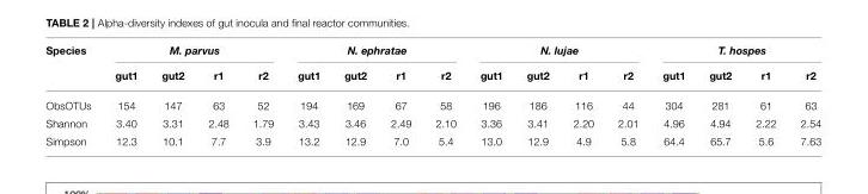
<table><thead><tr><td rowspan="2">Species</td><td colspan="4">M. parvus</td><td colspan="4">N. ephratae</td><td colspan="4">N. lujae</td><td colspan="4">T. hospes</td></tr><tr><td>gut1</td><td>gut2</td><td>r1</td><td>r2</td><td>gut1</td><td>gut2</td><td>r1</td><td>r2</td><td>gut1</td><td>gut2</td><td>r1</td><td>r2</td><td>gut1</td><td>gut2</td><td>r1</td><td>r2</td></tr></thead><tbody><tr><td>ObsOTUs</td><td>154</td><td>147</td><td>63</td><td>52</td><td>194</td><td>169</td><td>67</td><td>58</td><td>196</td><td>186</td><td>116</td><td>44</td><td>304</td><td>281</td><td>61</td><td>63</td></tr><tr><td>Shannon</td><td>3.40</td><td>3.31</td><td>2.48</td><td>1.79</td><td>3.43</td><td>3.46</td><td>2.49</td><td>2.10</td><td>3.36</td><td>3.41</td><td>2.20</td><td>2.01</td><td>4.96</td><td>4.94</td><td>2.22</td><td>2.54</td></tr><tr><td>Simpson</td><td>12.3</td><td>10.1</td><td>7.7</td><td>3.9</td><td>13.2</td><td>12.9</td><td>7.0</td><td>5.4</td><td>13.0</td><td>12.9</td><td>4.9</td><td>5.8</td><td>64.4</td><td>65.7</td><td>5.6</td><td>7.63</td></tr></tbody></table>